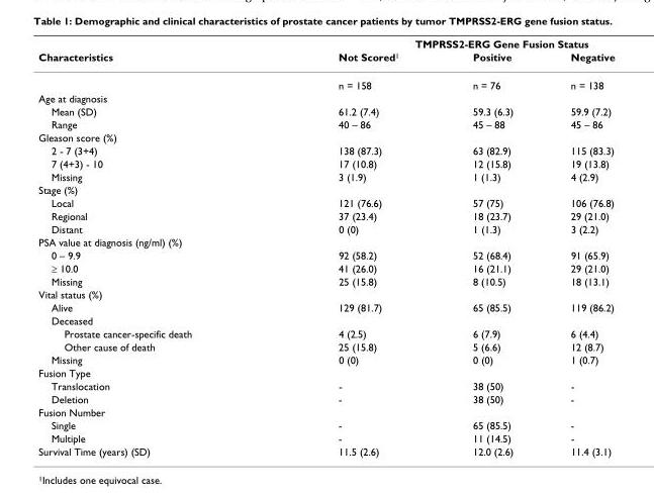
<table><thead><tr><td rowspan="2">Characteristics</td><td colspan="3">TMPRSS2-ERG Gene Fusion Status</td></tr><tr><td>Not Scored<sup>1</sup></td><td>Positive</td><td>Negative</td></tr></thead><tbody><tr><td></td><td>n = 158</td><td>n = 76</td><td>n = 138</td></tr><tr><td colspan="4">Age at diagnosis</td></tr><tr><td>Mean (SD)</td><td>61.2 (7.4)</td><td>59.3 (6.3)</td><td>59.9 (7.2)</td></tr><tr><td>Range</td><td>40 – 86</td><td>45 – 88</td><td>45 – 86</td></tr><tr><td colspan="4">Gleason score (%)</td></tr><tr><td>2 - 7 (3+4)</td><td>138 (87.3)</td><td>63 (82.9)</td><td>115 (83.3)</td></tr><tr><td>7 (4+3) - 10</td><td>17 (10.8)</td><td>12 (15.8)</td><td>19 (13.8)</td></tr><tr><td>Missing</td><td>3 (1.9)</td><td>1 (1.3)</td><td>4 (2.9)</td></tr><tr><td colspan="4">Stage (%)</td></tr><tr><td>Local</td><td>121 (76.6)</td><td>57 (75)</td><td>106 (76.8)</td></tr><tr><td>Regional</td><td>37 (23.4)</td><td>18 (23.7)</td><td>29 (21.0)</td></tr><tr><td>Distant</td><td>0 (0)</td><td>1 (1.3)</td><td>3 (2.2)</td></tr><tr><td colspan="4">PSA value at diagnosis (ng/ml) (%)</td></tr><tr><td>0 – 9.9</td><td>92 (58.2)</td><td>52 (68.4)</td><td>91 (65.9)</td></tr><tr><td>≥ 10.0</td><td>41 (26.0)</td><td>16 (21.1)</td><td>29 (21.0)</td></tr><tr><td>Missing</td><td>25 (15.8)</td><td>8 (10.5)</td><td>18 (13.1)</td></tr><tr><td colspan="4">Vital status (%)</td></tr><tr><td>Alive</td><td>129 (81.7)</td><td>65 (85.5)</td><td>119 (86.2)</td></tr><tr><td colspan="4">Deceased</td></tr><tr><td>Prostate cancer-specific death</td><td>4 (2.5)</td><td>6 (7.9)</td><td>6 (4.4)</td></tr><tr><td>Other cause of death</td><td>25 (15.8)</td><td>5 (6.6)</td><td>12 (8.7)</td></tr><tr><td>Missing</td><td>0 (0)</td><td>0 (0)</td><td>1 (0.7)</td></tr><tr><td colspan="4">Fusion Type</td></tr><tr><td>Translocation</td><td>-</td><td>38 (50)</td><td>-</td></tr><tr><td>Deletion</td><td>-</td><td>38 (50)</td><td>-</td></tr><tr><td colspan="4">Fusion Number</td></tr><tr><td>Single</td><td>-</td><td>65 (85.5)</td><td>-</td></tr><tr><td>Multiple</td><td>-</td><td>11 (14.5)</td><td>-</td></tr><tr><td>Survival Time (years) (SD)</td><td>11.5 (2.6)</td><td>12.0 (2.6)</td><td>11.4 (3.1)</td></tr></tbody></table>